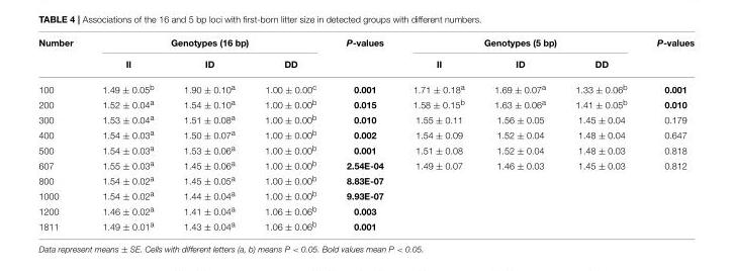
<table><thead><tr><td rowspan="2">Number</td><td colspan="3">Genotypes (16 bp)</td><td rowspan="2">P-values</td><td colspan="3">Genotypes (5 bp)</td><td rowspan="2">P-values</td></tr><tr><td>II</td><td>ID</td><td>DD</td><td>II</td><td>ID</td><td>DD</td></tr></thead><tbody><tr><td>100</td><td>1.49 ± 0.05<sup>b</sup></td><td>1.90 ± 0.10<sup>a</sup></td><td>1.00 ± 0.00<sup>c</sup></td><td>0.001</td><td>1.71 ± 0.18<sup>a</sup></td><td>1.69 ± 0.07<sup>a</sup></td><td>1.33 ± 0.06<sup>b</sup></td><td>0.001</td></tr><tr><td>200</td><td>1.52 ± 0.04<sup>a</sup></td><td>1.54 ± 0.10<sup>a</sup></td><td>1.00 ± 0.00<sup>b</sup></td><td>0.015</td><td>1.58 ± 0.15<sup>b</sup></td><td>1.63 ± 0.06<sup>a</sup></td><td>1.41 ± 0.05<sup>b</sup></td><td>0.010</td></tr><tr><td>300</td><td>1.53 ± 0.04<sup>a</sup></td><td>1.51 ± 0.08<sup>a</sup></td><td>1.00 ± 0.00<sup>b</sup></td><td>0.010</td><td>1.55 ± 0.11</td><td>1.56 ± 0.05</td><td>1.45 ± 0.04</td><td>0.179</td></tr><tr><td>400</td><td>1.54 ± 0.03<sup>a</sup></td><td>1.50 ± 0.07<sup>a</sup></td><td>1.00 ± 0.00<sup>b</sup></td><td>0.002</td><td>1.54 ± 0.09</td><td>1.52 ± 0.04</td><td>1.48 ± 0.04</td><td>0.647</td></tr><tr><td>500</td><td>1.54 ± 0.03<sup>a</sup></td><td>1.53 ± 0.06<sup>a</sup></td><td>1.00 ± 0.00<sup>b</sup></td><td>0.001</td><td>1.51 ± 0.08</td><td>1.52 ± 0.04</td><td>1.48 ± 0.03</td><td>0.818</td></tr><tr><td>607</td><td>1.55 ± 0.03<sup>a</sup></td><td>1.45 ± 0.06<sup>a</sup></td><td>1.00 ± 0.00<sup>b</sup></td><td>2.54E-04</td><td>1.49 ± 0.07</td><td>1.46 ± 0.03</td><td>1.45 ± 0.03</td><td>0.812</td></tr><tr><td>800</td><td>1.54 ± 0.02<sup>a</sup></td><td>1.45 ± 0.05<sup>a</sup></td><td>1.00 ± 0.00<sup>b</sup></td><td>8.83E-07</td><td></td><td></td><td></td><td></td></tr><tr><td>1000</td><td>1.54 ± 0.02<sup>a</sup></td><td>1.44 ± 0.04<sup>a</sup></td><td>1.00 ± 0.00<sup>b</sup></td><td>9.93E-07</td><td></td><td></td><td></td><td></td></tr><tr><td>1200</td><td>1.46 ± 0.02<sup>a</sup></td><td>1.41 ± 0.04<sup>a</sup></td><td>1.06 ± 0.06<sup>b</sup></td><td>0.003</td><td></td><td></td><td></td><td></td></tr><tr><td>1811</td><td>1.49 ± 0.01<sup>a</sup></td><td>1.43 ± 0.04<sup>a</sup></td><td>1.06 ± 0.06<sup>b</sup></td><td>0.001</td><td></td><td></td><td></td><td></td></tr></tbody></table>